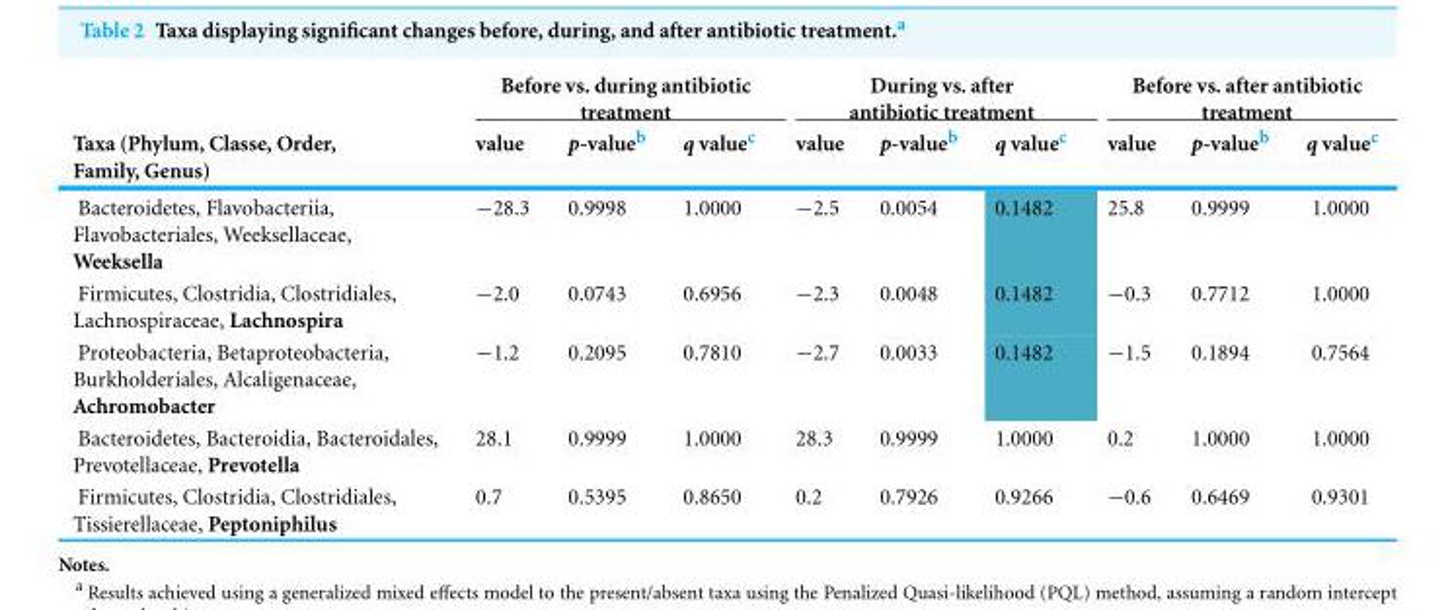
<table><thead><tr><td rowspan="2">Taxa (Phylum, Classe, Order, Family, Genus)</td><td colspan="3">Before vs. during antibiotic treatment</td><td colspan="3">During vs. after antibiotic treatment</td><td colspan="3">Before vs. after antibiotic treatment</td></tr><tr><td>value</td><td>p-value<sup>b</sup></td><td>q value<sup>c</sup></td><td>value</td><td>p-value<sup>b</sup></td><td>q value<sup>c</sup></td><td>value</td><td>p-value<sup>b</sup></td><td>q value<sup>c</sup></td></tr></thead><tbody><tr><td>Bacteroidetes, Flavobacteriia, Flavobacteriales, Weeksellaceae, Weeksella</td><td>−28.3</td><td>0.9998</td><td>1.0000</td><td>−2.5</td><td>0.0054</td><td>0.1482</td><td>25.8</td><td>0.9999</td><td>1.0000</td></tr><tr><td>Firmicutes, Clostridia, Clostridiales, Lachnospiraceae, Lachnospira</td><td>−2.0</td><td>0.0743</td><td>0.6956</td><td>−2.3</td><td>0.0048</td><td>0.1482</td><td>−0.3</td><td>0.7712</td><td>1.0000</td></tr><tr><td>Proteobacteria, Betaproteobacteria, Burkholderiales, Alcaligenaceae, Achromobacter</td><td>−1.2</td><td>0.2095</td><td>0.7810</td><td>−2.7</td><td>0.0033</td><td>0.1482</td><td>−1.5</td><td>0.1894</td><td>0.7564</td></tr><tr><td>Bacteroidetes, Bacteroidia, Bacteroidales, Prevotellaceae, Prevotella</td><td>28.1</td><td>0.9999</td><td>1.0000</td><td>28.3</td><td>0.9999</td><td>1.0000</td><td>0.2</td><td>1.0000</td><td>1.0000</td></tr><tr><td>Firmicutes, Clostridia, Clostridiales, Tissierellaceae, Peptoniphilus</td><td>0.7</td><td>0.5395</td><td>0.8650</td><td>0.2</td><td>0.7926</td><td>0.9266</td><td>−0.6</td><td>0.6469</td><td>0.9301</td></tr></tbody></table>